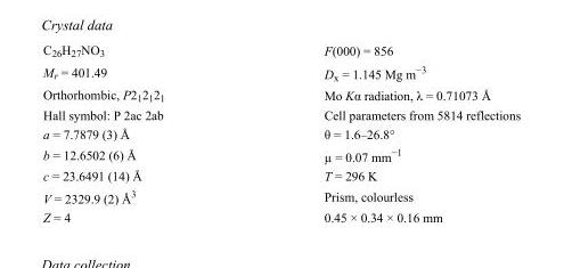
<table><tbody><tr><td>C<sub>26</sub>H<sub>27</sub>NO<sub>3</sub></td><td>F(000) = 856</td></tr><tr><td>M<sub>r</sub> = 401.49</td><td>D<sub>x</sub> = 1.145 Mg m<sup>−3</sup></td></tr><tr><td>Orthorhombic, P2<sub>1</sub>2<sub>1</sub>2<sub>1</sub></td><td>Mo Kα radiation, λ = 0.71073 Å</td></tr><tr><td>Hall symbol: P 2ac 2ab</td><td>Cell parameters from 5814 reflections</td></tr><tr><td>a = 7.7879 (3) Å</td><td>θ = 1.6–26.8°</td></tr><tr><td>b = 12.6502 (6) Å</td><td>µ = 0.07 mm<sup>−1</sup></td></tr><tr><td>c = 23.6491 (14) Å</td><td>T = 296 K</td></tr><tr><td>V = 2329.9 (2) Å<sup>3</sup></td><td>Prism, colourless</td></tr><tr><td>Z = 4</td><td>0.45 × 0.34 × 0.16 mm</td></tr></tbody></table>